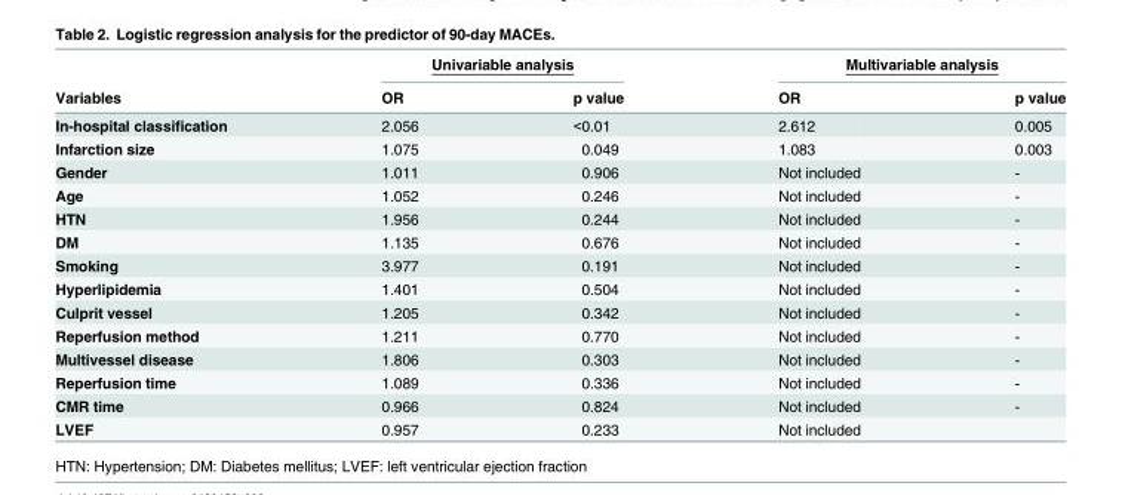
<table><thead><tr><td rowspan="2">Variables</td><td colspan="2">Univariable analysis</td><td colspan="2">Multivariable analysis</td></tr><tr><td>OR</td><td>p value</td><td>OR</td><td>p value</td></tr></thead><tbody><tr><td>In-hospital classification</td><td>2.056</td><td>&lt;0.01</td><td>2.612</td><td>0.005</td></tr><tr><td>Infarction size</td><td>1.075</td><td>0.049</td><td>1.083</td><td>0.003</td></tr><tr><td>Gender</td><td>1.011</td><td>0.906</td><td>Not included</td><td>-</td></tr><tr><td>Age</td><td>1.052</td><td>0.246</td><td>Not included</td><td>-</td></tr><tr><td>HTN</td><td>1.956</td><td>0.244</td><td>Not included</td><td>-</td></tr><tr><td>DM</td><td>1.135</td><td>0.676</td><td>Not included</td><td>-</td></tr><tr><td>Smoking</td><td>3.977</td><td>0.191</td><td>Not included</td><td>-</td></tr><tr><td>Hyperlipidemia</td><td>1.401</td><td>0.504</td><td>Not included</td><td>-</td></tr><tr><td>Culprit vessel</td><td>1.205</td><td>0.342</td><td>Not included</td><td>-</td></tr><tr><td>Reperfusion method</td><td>1.211</td><td>0.770</td><td>Not included</td><td>-</td></tr><tr><td>Multivessel disease</td><td>1.806</td><td>0.303</td><td>Not included</td><td>-</td></tr><tr><td>Reperfusion time</td><td>1.089</td><td>0.336</td><td>Not included</td><td>-</td></tr><tr><td>CMR time</td><td>0.966</td><td>0.824</td><td>Not included</td><td>-</td></tr><tr><td>LVEF</td><td>0.957</td><td>0.233</td><td>Not included</td><td></td></tr></tbody></table>